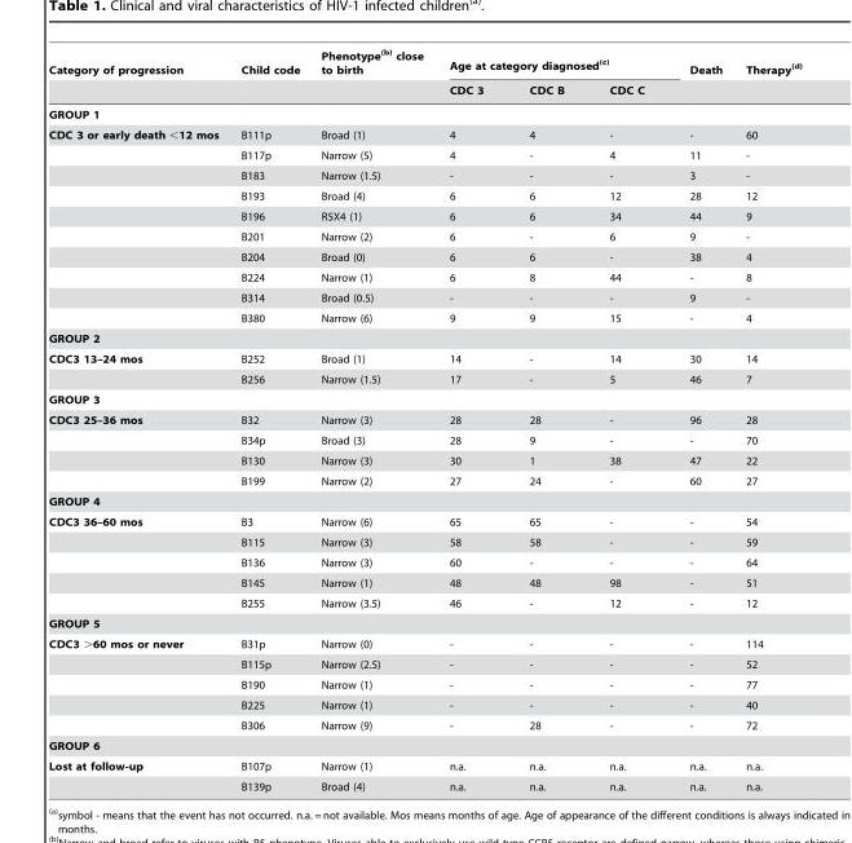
<table><thead><tr><td rowspan="2">Category of progression</td><td rowspan="2">Child code</td><td rowspan="2">Phenotype(b) close to birth</td><td colspan="3">Age at category diagnosed(c)</td><td rowspan="2">Death</td><td rowspan="2">Therapy(d)</td></tr><tr><td>CDC 3</td><td>CDC B</td><td>CDC C</td></tr></thead><tbody><tr><td colspan="8">GROUP 1</td></tr><tr><td rowspan="10">CDC 3 or early death &lt;12 mos</td><td>B111p</td><td>Broad (1)</td><td>4</td><td>4</td><td>-</td><td>-</td><td>60</td></tr><tr><td>B117p</td><td>Narrow (5)</td><td>4</td><td>-</td><td>4</td><td>11</td><td>-</td></tr><tr><td>B183</td><td>Narrow (1.5)</td><td>-</td><td>-</td><td>-</td><td>3</td><td>-</td></tr><tr><td>B193</td><td>Broad (4)</td><td>6</td><td>6</td><td>12</td><td>28</td><td>12</td></tr><tr><td>B196</td><td>R5X4 (1)</td><td>6</td><td>6</td><td>34</td><td>44</td><td>9</td></tr><tr><td>B201</td><td>Narrow (2)</td><td>6</td><td>-</td><td>6</td><td>9</td><td>-</td></tr><tr><td>B204</td><td>Broad (0)</td><td>6</td><td>6</td><td>-</td><td>38</td><td>4</td></tr><tr><td>B224</td><td>Narrow (1)</td><td>6</td><td>8</td><td>44</td><td>-</td><td>8</td></tr><tr><td>B314</td><td>Broad (0.5)</td><td>-</td><td>-</td><td>-</td><td>9</td><td>-</td></tr><tr><td>B380</td><td>Narrow (6)</td><td>9</td><td>9</td><td>15</td><td>-</td><td>4</td></tr><tr><td colspan="8">GROUP 2</td></tr><tr><td rowspan="2">CDC3 13–24 mos</td><td>B252</td><td>Broad (1)</td><td>14</td><td>-</td><td>14</td><td>30</td><td>14</td></tr><tr><td>B256</td><td>Narrow (1.5)</td><td>17</td><td>-</td><td>5</td><td>46</td><td>7</td></tr><tr><td colspan="8">GROUP 3</td></tr><tr><td rowspan="4">CDC3 25–36 mos</td><td>B32</td><td>Narrow (3)</td><td>28</td><td>28</td><td>-</td><td>96</td><td>28</td></tr><tr><td>B34p</td><td>Broad (3)</td><td>28</td><td>9</td><td>-</td><td>-</td><td>70</td></tr><tr><td>B130</td><td>Narrow (3)</td><td>30</td><td>1</td><td>38</td><td>47</td><td>22</td></tr><tr><td>B199</td><td>Narrow (2)</td><td>27</td><td>24</td><td>-</td><td>60</td><td>27</td></tr><tr><td colspan="8">GROUP 4</td></tr><tr><td rowspan="5">CDC3 36–60 mos</td><td>B3</td><td>Narrow (6)</td><td>65</td><td>65</td><td>-</td><td>-</td><td>54</td></tr><tr><td>B115</td><td>Narrow (3)</td><td>58</td><td>58</td><td>-</td><td>-</td><td>59</td></tr><tr><td>B136</td><td>Narrow (3)</td><td>60</td><td>-</td><td>-</td><td>-</td><td>64</td></tr><tr><td>B145</td><td>Narrow (1)</td><td>48</td><td>48</td><td>98</td><td>-</td><td>51</td></tr><tr><td>B255</td><td>Narrow (3.5)</td><td>46</td><td>-</td><td>12</td><td>-</td><td>12</td></tr><tr><td colspan="8">GROUP 5</td></tr><tr><td rowspan="5">CDC3 &gt;60 mos or never</td><td>B31p</td><td>Narrow (0)</td><td>-</td><td>-</td><td>-</td><td>-</td><td>114</td></tr><tr><td>B115p</td><td>Narrow (2.5)</td><td>-</td><td>-</td><td>-</td><td>-</td><td>52</td></tr><tr><td>B190</td><td>Narrow (1)</td><td>-</td><td>-</td><td>-</td><td>-</td><td>77</td></tr><tr><td>B225</td><td>Narrow (1)</td><td>-</td><td>-</td><td>-</td><td>-</td><td>40</td></tr><tr><td>B306</td><td>Narrow (9)</td><td>-</td><td>28</td><td>-</td><td>-</td><td>72</td></tr><tr><td colspan="8">GROUP 6</td></tr><tr><td rowspan="2">Lost at follow-up</td><td>B107p</td><td>Narrow (1)</td><td>n.a.</td><td>n.a.</td><td>n.a.</td><td>n.a.</td><td>n.a.</td></tr><tr><td>B139p</td><td>Broad (4)</td><td>n.a.</td><td>n.a.</td><td>n.a.</td><td>n.a.</td><td>n.a.</td></tr></tbody></table>